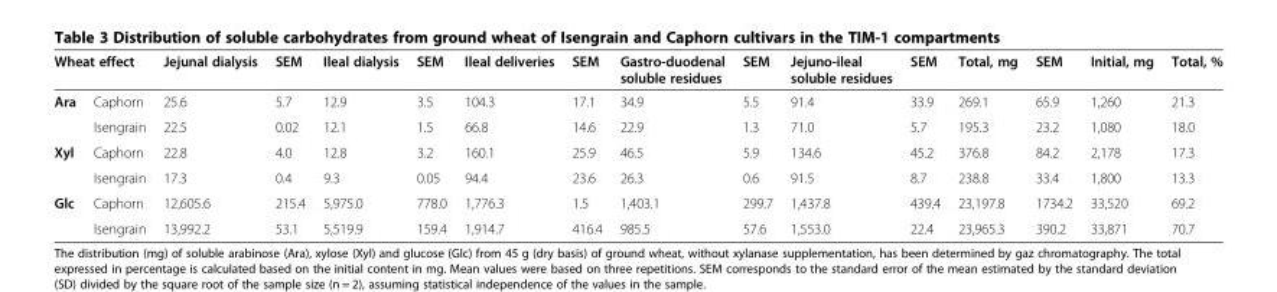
<table><thead><tr><td colspan="2">Wheat effect</td><td rowspan="2">Jejunal dialysis 25.6</td><td rowspan="2">SEM 5.7</td><td rowspan="2">Ileal dialysis 12.9</td><td rowspan="2">SEM 3.5</td><td rowspan="2">Ileal deliveries 104.3</td><td rowspan="2">SEM 17.1</td><td rowspan="2">Gastro-duodenal soluble residues 34.9</td><td rowspan="2">SEM 5.5</td><td rowspan="2">Jejuno-ileal soluble residues 91.4</td><td rowspan="2">SEM 33.9</td><td rowspan="2">Total, mg 269.1</td><td rowspan="2">SEM 65.9</td><td rowspan="2">Initial, mg 1,260</td><td rowspan="2">Total, % 21.3</td></tr><tr><td>Ara</td><td>Caphorn</td></tr></thead><tbody><tr><td></td><td>Isengrain</td><td>22.5</td><td>0.02</td><td>12.1</td><td>1.5</td><td>66.8</td><td>14.6</td><td>22.9</td><td>1.3</td><td>71.0</td><td>5.7</td><td>195.3</td><td>23.2</td><td>1,080</td><td>18.0</td></tr><tr><td rowspan="2">Xyl</td><td>Caphorn</td><td>22.8</td><td>4.0</td><td>12.8</td><td>3.2</td><td>160.1</td><td>25.9</td><td>46.5</td><td>5.9</td><td>134.6</td><td>45.2</td><td>376.8</td><td>84.2</td><td>2,178</td><td>17.3</td></tr><tr><td>Isengrain</td><td>17.3</td><td>0.4</td><td>9.3</td><td>0.05</td><td>94.4</td><td>23.6</td><td>26.3</td><td>0.6</td><td>91.5</td><td>8.7</td><td>238.8</td><td>33.4</td><td>1,800</td><td>13.3</td></tr><tr><td rowspan="2">Glc</td><td>Caphorn</td><td>12,605.6</td><td>215.4</td><td>5,975.0</td><td>778.0</td><td>1,776.3</td><td>1.5</td><td>1,403.1</td><td>299.7</td><td>1,437.8</td><td>439.4</td><td>23,197.8</td><td>1734.2</td><td>33,520</td><td>69.2</td></tr><tr><td>Isengrain</td><td>13,992.2</td><td>53.1</td><td>5,519.9</td><td>159.4</td><td>1,914.7</td><td>416.4</td><td>985.5</td><td>57.6</td><td>1,553.0</td><td>22.4</td><td>23,965.3</td><td>390.2</td><td>33,871</td><td>70.7</td></tr></tbody></table>